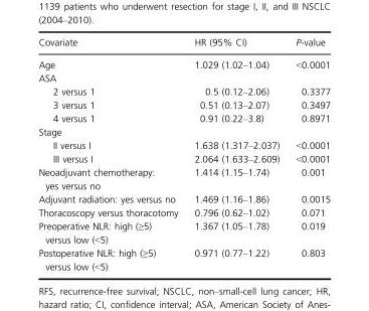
<table><thead><tr><td>Covariate</td><td>HR (95% CI)</td><td>P-value</td></tr></thead><tbody><tr><td>Age</td><td>1.029 (1.02–1.04)</td><td>&lt;0.0001</td></tr><tr><td colspan="3">ASA</td></tr><tr><td>2 versus 1</td><td>0.5 (0.12–2.06)</td><td>0.3377</td></tr><tr><td>3 versus 1</td><td>0.51 (0.13–2.07)</td><td>0.3497</td></tr><tr><td>4 versus 1</td><td>0.91 (0.22–3.8)</td><td>0.8971</td></tr><tr><td colspan="3">Stage</td></tr><tr><td>II versus I</td><td>1.638 (1.317–2.037)</td><td>&lt;0.0001</td></tr><tr><td>III versus I</td><td>2.064 (1.633–2.609)</td><td>&lt;0.0001</td></tr><tr><td>Neoadjuvant chemotherapy: yes versus no</td><td>1.414 (1.15–1.74)</td><td>0.001</td></tr><tr><td>Adjuvant radiation: yes versus no</td><td>1.469 (1.16–1.86)</td><td>0.0015</td></tr><tr><td>Thoracoscopy versus thoracotomy</td><td>0.796 (0.62–1.02)</td><td>0.071</td></tr><tr><td>Preoperative NLR: high (≥5) versus low (&lt;5)</td><td>1.367 (1.05–1.78)</td><td>0.019</td></tr><tr><td>Postoperative NLR: high (≥5) versus low (&lt;5)</td><td>0.971 (0.77–1.22)</td><td>0.803</td></tr></tbody></table>